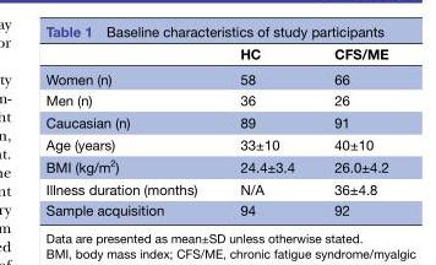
<table><thead><tr><td></td><td>HC</td><td>CFS/ME</td></tr></thead><tbody><tr><td>Women (n)</td><td>58</td><td>66</td></tr><tr><td>Men (n)</td><td>36</td><td>26</td></tr><tr><td>Caucasian (n)</td><td>89</td><td>91</td></tr><tr><td>Age (years)</td><td>33±10</td><td>40±10</td></tr><tr><td>BMI (kg/m<sup>2</sup>)</td><td>24.4±3.4</td><td>26.0±4.2</td></tr><tr><td>Illness duration (months)</td><td>N/A</td><td>36±4.8</td></tr><tr><td>Sample acquisition</td><td>94</td><td>92</td></tr></tbody></table>